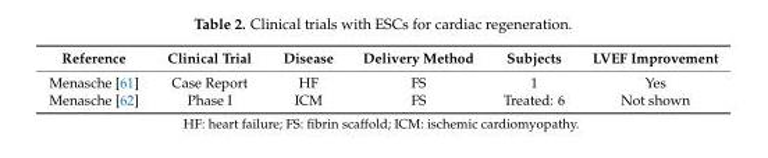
<table><thead><tr><td>Reference</td><td>Clinical Trial</td><td>Disease</td><td>Delivery Method</td><td>Subjects</td><td>LVEF Improvement</td></tr></thead><tbody><tr><td>Menasche [61]</td><td>Case Report</td><td>HF</td><td>FS</td><td>1</td><td>Yes</td></tr><tr><td>Menasche [62]</td><td>Phase I</td><td>ICM</td><td>FS</td><td>Treated: 6</td><td>Not shown</td></tr></tbody></table>